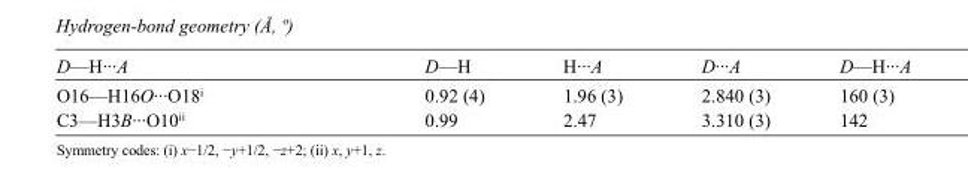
<table><tbody><tr><td>D—H···A</td><td>D—H</td><td>H···A</td><td>D···A</td><td>D—H···A</td></tr><tr><td>O16—H16O···O18<sup>i</sup></td><td>0.92 (4)</td><td>1.96 (3)</td><td>2.840 (3)</td><td>160 (3)</td></tr><tr><td>C3—H3B···O10<sup>ii</sup></td><td>0.99</td><td>2.47</td><td>3.310 (3)</td><td>142</td></tr></tbody></table>